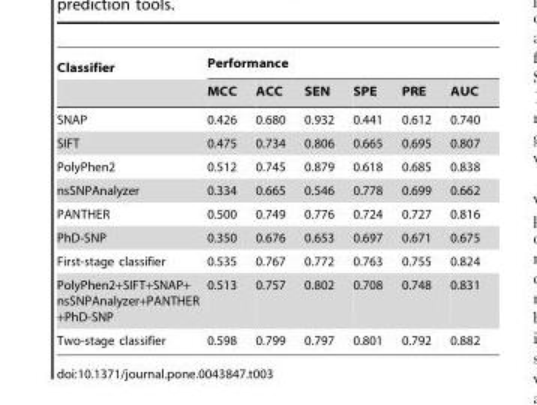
<table><thead><tr><td rowspan="2">Classifier</td><td colspan="6">Performance</td></tr><tr><td>MCC</td><td>ACC</td><td>SEN</td><td>SPE</td><td>PRE</td><td>AUC</td></tr></thead><tbody><tr><td>SNAP</td><td>0.426</td><td>0.680</td><td>0.932</td><td>0.441</td><td>0.612</td><td>0.740</td></tr><tr><td>SIFT</td><td>0.475</td><td>0.734</td><td>0.806</td><td>0.665</td><td>0.695</td><td>0.807</td></tr><tr><td>PolyPhen2</td><td>0.512</td><td>0.745</td><td>0.879</td><td>0.618</td><td>0.685</td><td>0.838</td></tr><tr><td>nsSNPAnalyzer</td><td>0.334</td><td>0.665</td><td>0.546</td><td>0.778</td><td>0.699</td><td>0.662</td></tr><tr><td>PANTHER</td><td>0.500</td><td>0.749</td><td>0.776</td><td>0.724</td><td>0.727</td><td>0.816</td></tr><tr><td>PhD-SNP</td><td>0.350</td><td>0.676</td><td>0.653</td><td>0.697</td><td>0.671</td><td>0.675</td></tr><tr><td>First-stage classifier</td><td>0.535</td><td>0.767</td><td>0.772</td><td>0.763</td><td>0.755</td><td>0.824</td></tr><tr><td>PolyPhen2+SIFT+SNAP+ nsSNPAnalyzer+PANTHER +PhD-SNP</td><td>0.513</td><td>0.757</td><td>0.802</td><td>0.708</td><td>0.748</td><td>0.831</td></tr><tr><td>Two-stage classifier</td><td>0.598</td><td>0.799</td><td>0.797</td><td>0.801</td><td>0.792</td><td>0.882</td></tr></tbody></table>